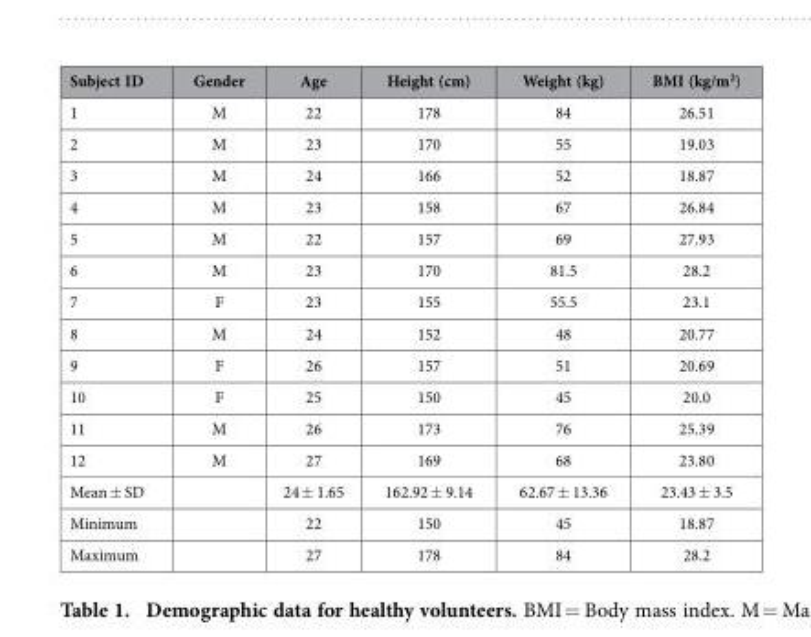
<table><thead><tr><td>Subject ID</td><td>Gender</td><td>Age</td><td>Height (cm)</td><td>Weight (kg)</td><td>BMI (kg/m<sup>2</sup>)</td></tr></thead><tbody><tr><td>1</td><td>M</td><td>22</td><td>178</td><td>84</td><td>26.51</td></tr><tr><td>2</td><td>M</td><td>23</td><td>170</td><td>55</td><td>19.03</td></tr><tr><td>3</td><td>M</td><td>24</td><td>166</td><td>52</td><td>18.87</td></tr><tr><td>4</td><td>M</td><td>23</td><td>158</td><td>67</td><td>26.84</td></tr><tr><td>5</td><td>M</td><td>22</td><td>157</td><td>69</td><td>27.93</td></tr><tr><td>6</td><td>M</td><td>23</td><td>170</td><td>81.5</td><td>28.2</td></tr><tr><td>7</td><td>F</td><td>23</td><td>155</td><td>55.5</td><td>23.1</td></tr><tr><td>8</td><td>M</td><td>24</td><td>152</td><td>48</td><td>20.77</td></tr><tr><td>9</td><td>F</td><td>26</td><td>157</td><td>51</td><td>20.69</td></tr><tr><td>10</td><td>F</td><td>25</td><td>150</td><td>45</td><td>20.0</td></tr><tr><td>11</td><td>M</td><td>26</td><td>173</td><td>76</td><td>25.39</td></tr><tr><td>12</td><td>M</td><td>27</td><td>169</td><td>68</td><td>23.80</td></tr><tr><td>Mean ± SD</td><td></td><td>24 ± 1.65</td><td>162.92 ± 9.14</td><td>62.67 ± 13.36</td><td>23.43 ± 3.5</td></tr><tr><td>Minimum</td><td></td><td>22</td><td>150</td><td>45</td><td>18.87</td></tr><tr><td>Maximum</td><td></td><td>27</td><td>178</td><td>84</td><td>28.2</td></tr></tbody></table>